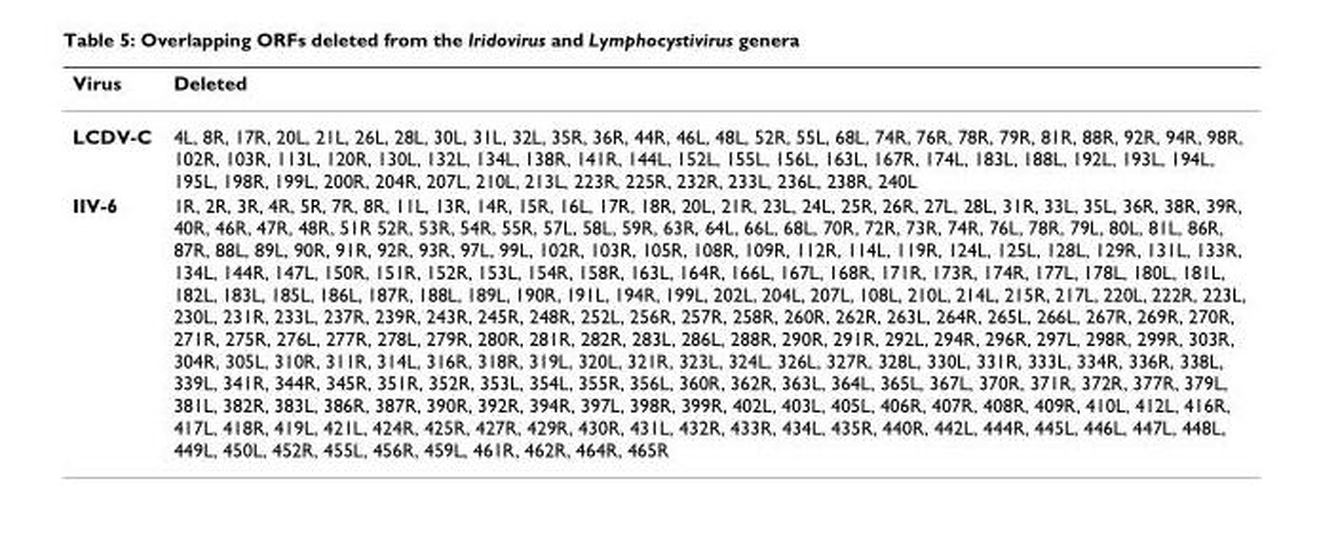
<table><thead><tr><td>Virus</td><td>Deleted</td></tr></thead><tbody><tr><td>LCDV-C</td><td>4L, 8R, 17R, 20L, 21L, 26L, 28L, 30L, 31L, 32L, 35R, 36R, 44R, 46L, 48L, 52R, 55L, 68L, 74R, 76R, 78R, 79R, 81R, 88R, 92R, 94R, 98R, 102R, 103R, 113L, 120R, 130L, 132L, 134L, 138R, 141R, 144L, 152L, 155L, 156L, 163L, 167R, 174L, 183L, 188L, 192L, 193L, 194L, 195L, 198R, 199L, 200R, 204R, 207L, 210L, 213L, 223R, 225R, 232R, 233L, 236L, 238R, 240L</td></tr><tr><td>IIV-6</td><td>1R, 2R, 3R, 4R, 5R, 7R, 8R, 11L, 13R, 14R, 15R, 16L, 17R, 18R, 20L, 21R, 23L, 24L, 25R, 26R, 27L, 28L, 31R, 33L, 35L, 36R, 38R, 39R, 40R, 46R, 47R, 48R, 51R 52R, 53R, 54R, 55R, 57L, 58L, 59R, 63R, 64L, 66L, 68L, 70R, 72R, 73R, 74R, 76L, 78R, 79L, 80L, 81L, 86R, 87R, 88L, 89L, 90R, 91R, 92R, 93R, 97L, 99L, 102R, 103R, 105R, 108R, 109R, 112R, 114L, 119R, 124L, 125L, 128L, 129R, 131L, 133R, 134L, 144R, 147L, 150R, 151R, 152R, 153L, 154R, 158R, 163L, 164R, 166L, 167L, 168R, 171R, 173R, 174R, 177L, 178L, 180L, 181L, 182L, 183L, 185L, 186L, 187R, 188L, 189L, 190R, 191L, 194R, 199L, 202L, 204L, 207L, 108L, 210L, 214L, 215R, 217L, 220L, 222R, 223L, 230L, 231R, 233L, 237R, 239R, 243R, 245R, 248R, 252L, 256R, 257R, 258R, 260R, 262R, 263L, 264R, 265L, 266L, 267R, 269R, 270R, 271R, 275R, 276L, 277R, 278L, 279R, 280R, 281R, 282R, 283L, 286L, 288R, 290R, 291R, 292L, 294R, 296R, 297L, 298R, 299R, 303R, 304R, 305L, 310R, 311R, 314L, 316R, 318R, 319L, 320L, 321R, 323L, 324L, 326L, 327R, 328L, 330L, 331R, 333L, 334R, 336R, 338L, 339L, 341R, 344R, 345R, 351R, 352R, 353L, 354L, 355R, 356L, 360R, 362R, 363L, 364L, 365L, 367L, 370R, 371R, 372R, 377R, 379L, 381L, 382R, 383L, 386R, 387R, 390R, 392R, 394R, 397L, 398R, 399R, 402L, 403L, 405L, 406R, 407R, 408R, 409R, 410L, 412L, 416R, 417L, 418R, 419L, 421L, 424R, 425R, 427R, 429R, 430R, 431L, 432R, 433R, 434L, 435R, 440R, 442L, 444R, 445L, 446L, 447L, 448L, 449L, 450L, 452R, 455L, 456R, 459L, 461R, 462R, 464R, 465R</td></tr></tbody></table>